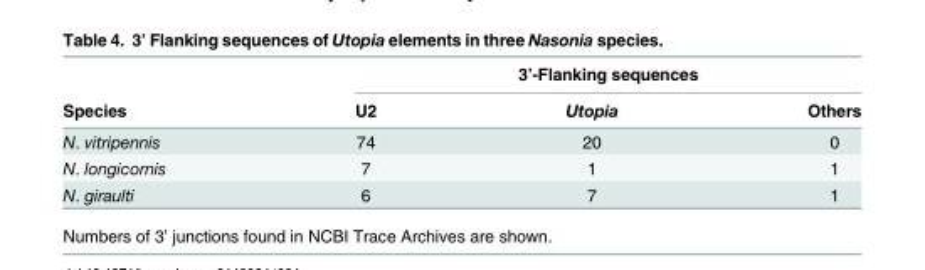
<table><thead><tr><td rowspan="2">Species</td><td colspan="3">3’-Flanking sequences</td></tr><tr><td>U2</td><td>Utopia</td><td>Others</td></tr></thead><tbody><tr><td>N. vitripennis</td><td>74</td><td>20</td><td>0</td></tr><tr><td>N. longicornis</td><td>7</td><td>1</td><td>1</td></tr><tr><td>N. giraulti</td><td>6</td><td>7</td><td>1</td></tr></tbody></table>